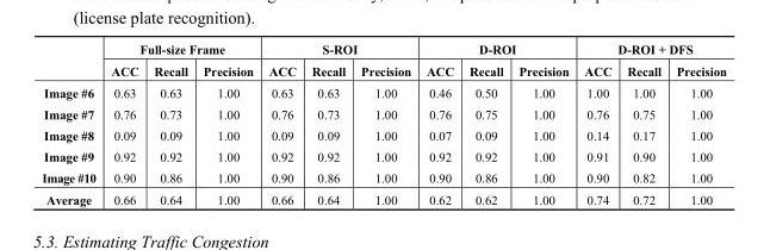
<table><thead><tr><td rowspan="2"></td><td colspan="3">Full-size Frame</td><td colspan="3">S-ROI</td><td colspan="3">D-ROI</td><td colspan="3">D-ROI + DFS</td></tr><tr><td>ACC</td><td>Recall</td><td>Precision</td><td>ACC</td><td>Recall</td><td>Precision</td><td>ACC</td><td>Recall</td><td>Precision</td><td>ACC</td><td>Recall</td><td>Precision</td></tr></thead><tbody><tr><td>Image #6</td><td>0.63</td><td>0.63</td><td>1.00</td><td>0.63</td><td>0.63</td><td>1.00</td><td>0.46</td><td>0.50</td><td>1.00</td><td>1.00</td><td>1.00</td><td>1.00</td></tr><tr><td>Image #7</td><td>0.76</td><td>0.73</td><td>1.00</td><td>0.76</td><td>0.73</td><td>1.00</td><td>0.76</td><td>0.75</td><td>1.00</td><td>0.76</td><td>0.75</td><td>1.00</td></tr><tr><td>Image #8</td><td>0.09</td><td>0.09</td><td>1.00</td><td>0.09</td><td>0.09</td><td>1.00</td><td>0.07</td><td>0.09</td><td>1.00</td><td>0.14</td><td>0.17</td><td>1.00</td></tr><tr><td>Image #9</td><td>0.92</td><td>0.92</td><td>1.00</td><td>0.92</td><td>0.92</td><td>1.00</td><td>0.92</td><td>0.92</td><td>1.00</td><td>0.91</td><td>0.90</td><td>1.00</td></tr><tr><td>Image #10</td><td>0.90</td><td>0.86</td><td>1.00</td><td>0.90</td><td>0.86</td><td>1.00</td><td>0.90</td><td>0.86</td><td>1.00</td><td>0.90</td><td>0.82</td><td>1.00</td></tr><tr><td>Average</td><td>0.66</td><td>0.64</td><td>1.00</td><td>0.66</td><td>0.64</td><td>1.00</td><td>0.62</td><td>0.62</td><td>1.00</td><td>0.74</td><td>0.72</td><td>1.00</td></tr></tbody></table>